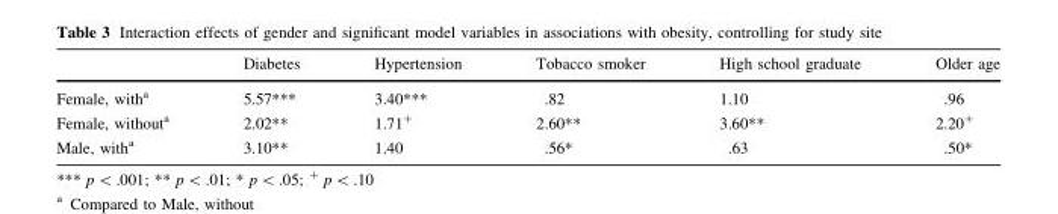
<table><thead><tr><td></td><td>Diabetes</td><td>Hypertension</td><td>Tobacco smoker</td><td>High school graduate</td><td>Older age</td></tr></thead><tbody><tr><td>Female, with<sup>a</sup></td><td>5.57***</td><td>3.40***</td><td>.82</td><td>1.10</td><td>.96</td></tr><tr><td>Female, without<sup>a</sup></td><td>2.02**</td><td>1.71<sup>+</sup></td><td>2.60**</td><td>3.60**</td><td>2.20<sup>+</sup></td></tr><tr><td>Male, with<sup>a</sup></td><td>3.10**</td><td>1.40</td><td>.56*</td><td>.63</td><td>.50*</td></tr></tbody></table>